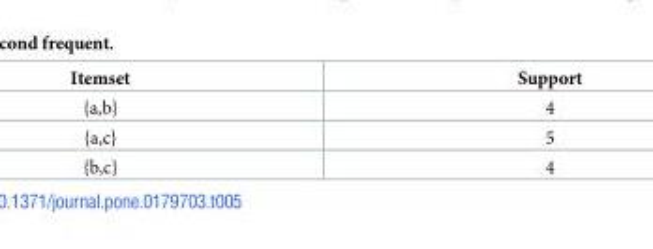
<table><thead><tr><td>Itemset</td><td>Support</td></tr></thead><tbody><tr><td>{a,b}</td><td>4</td></tr><tr><td>{a,c}</td><td>5</td></tr><tr><td>{b,c}</td><td>4</td></tr></tbody></table>